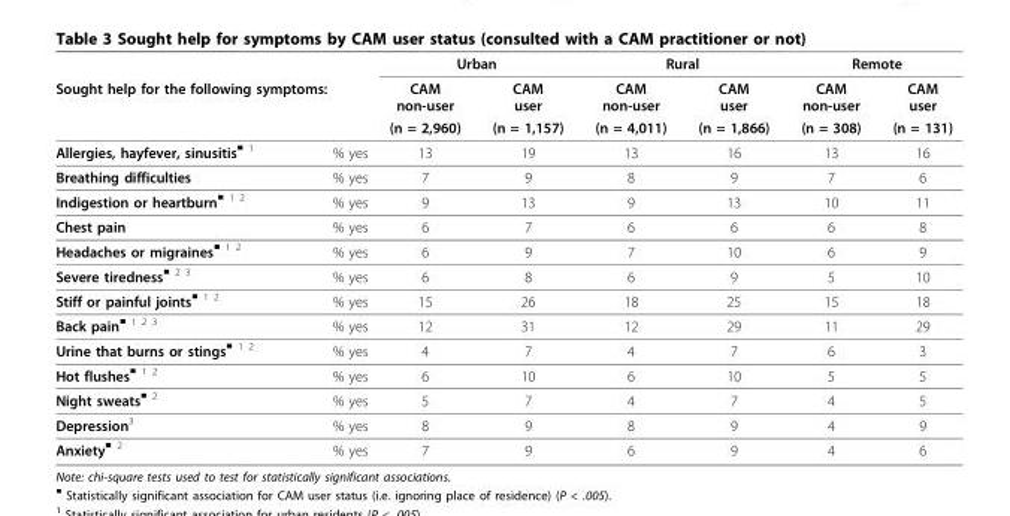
<table><thead><tr><td></td><td></td><td colspan="2">Urban</td><td colspan="2">Rural</td><td colspan="2">Remote</td></tr><tr><td colspan="2">Sought help for the following symptoms:</td><td rowspan="2">CAM non-user (n = 2,960)</td><td rowspan="2">CAM user (n = 1,157)</td><td rowspan="2">CAM non-user (n = 4,011)</td><td rowspan="2">CAM user (n = 1,866)</td><td rowspan="2">CAM non-user (n = 308)</td><td rowspan="2">CAM user (n = 131)</td></tr><tr><td></td><td></td></tr></thead><tbody><tr><td>Allergies, hayfever, sinusitis■ 1</td><td>% yes</td><td>13</td><td>19</td><td>13</td><td>16</td><td>13</td><td>16</td></tr><tr><td>Breathing difficulties</td><td>% yes</td><td>7</td><td>9</td><td>8</td><td>9</td><td>7</td><td>6</td></tr><tr><td>Indigestion or heartburn■ 1 2</td><td>% yes</td><td>9</td><td>13</td><td>9</td><td>13</td><td>10</td><td>11</td></tr><tr><td>Chest pain</td><td>% yes</td><td>6</td><td>7</td><td>6</td><td>6</td><td>6</td><td>8</td></tr><tr><td>Headaches or migraines■ 1 2</td><td>% yes</td><td>6</td><td>9</td><td>7</td><td>10</td><td>6</td><td>9</td></tr><tr><td>Severe tiredness■ 2 3</td><td>% yes</td><td>6</td><td>8</td><td>6</td><td>9</td><td>5</td><td>10</td></tr><tr><td>Stiff or painful joints■ 1 2</td><td>% yes</td><td>15</td><td>26</td><td>18</td><td>25</td><td>15</td><td>18</td></tr><tr><td>Back pain■ 1 2 3</td><td>% yes</td><td>12</td><td>31</td><td>12</td><td>29</td><td>11</td><td>29</td></tr><tr><td>Urine that burns or stings■ 1 2</td><td>% yes</td><td>4</td><td>7</td><td>4</td><td>7</td><td>6</td><td>3</td></tr><tr><td>Hot flushes■ 1 2</td><td>% yes</td><td>6</td><td>10</td><td>6</td><td>10</td><td>5</td><td>5</td></tr><tr><td>Night sweats■ 2</td><td>% yes</td><td>5</td><td>7</td><td>4</td><td>7</td><td>4</td><td>5</td></tr><tr><td>Depression3</td><td>% yes</td><td>8</td><td>9</td><td>8</td><td>9</td><td>4</td><td>9</td></tr><tr><td>Anxiety■ 2</td><td>% yes</td><td>7</td><td>9</td><td>6</td><td>9</td><td>4</td><td>6</td></tr></tbody></table>